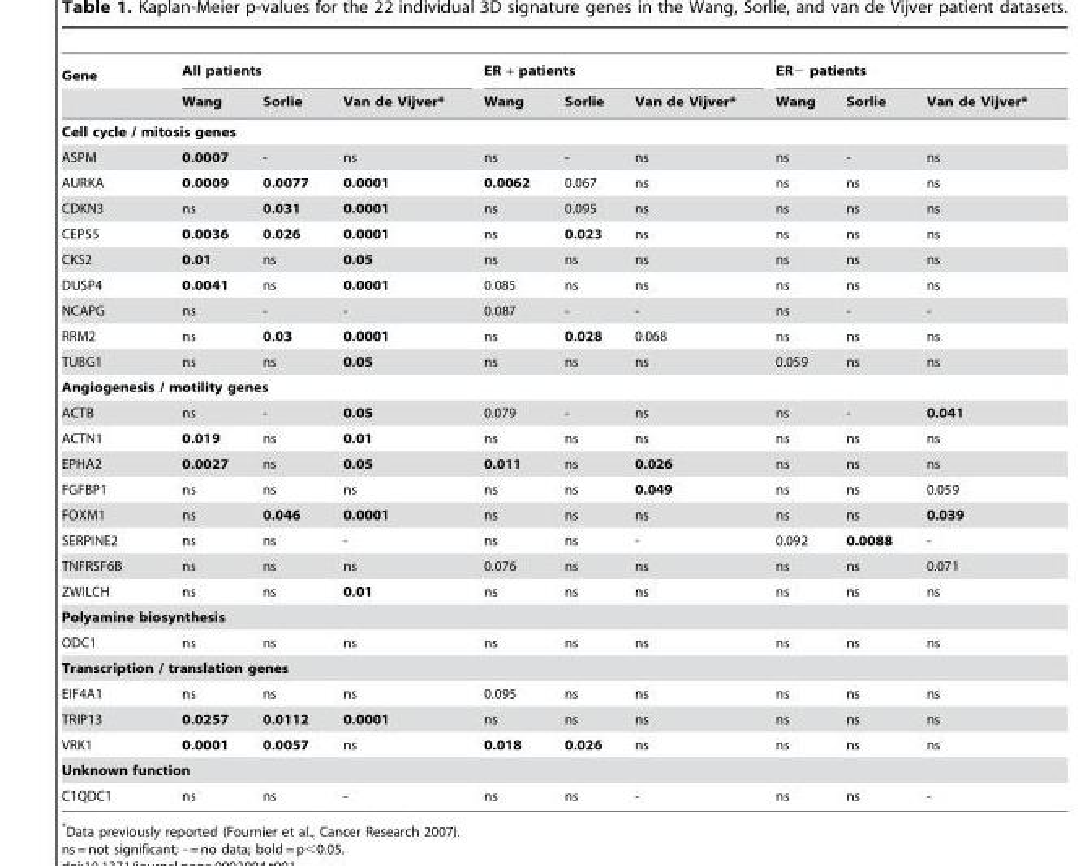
<table><thead><tr><td rowspan="2">Gene</td><td colspan="3">All patients</td><td colspan="3">ER + patients</td><td colspan="3">ER− patients</td></tr><tr><td>Wang</td><td>Sorlie</td><td>Van de Vijver*</td><td>Wang</td><td>Sorlie</td><td>Van de Vijver*</td><td>Wang</td><td>Sorlie</td><td>Van de Vijver*</td></tr></thead><tbody><tr><td colspan="10">Cell cycle / mitosis genes</td></tr><tr><td>ASPM</td><td>0.0007</td><td>-</td><td>ns</td><td>ns</td><td>-</td><td>ns</td><td>ns</td><td>-</td><td>ns</td></tr><tr><td>AURKA</td><td>0.0009</td><td>0.0077</td><td>0.0001</td><td>0.0062</td><td>0.067</td><td>ns</td><td>ns</td><td>ns</td><td>ns</td></tr><tr><td>CDKN3</td><td>ns</td><td>0.031</td><td>0.0001</td><td>ns</td><td>0.095</td><td>ns</td><td>ns</td><td>ns</td><td>ns</td></tr><tr><td>CEP55</td><td>0.0036</td><td>0.026</td><td>0.0001</td><td>ns</td><td>0.023</td><td>ns</td><td>ns</td><td>ns</td><td>ns</td></tr><tr><td>CKS2</td><td>0.01</td><td>ns</td><td>0.05</td><td>ns</td><td>ns</td><td>ns</td><td>ns</td><td>ns</td><td>ns</td></tr><tr><td>DUSP4</td><td>0.0041</td><td>ns</td><td>0.0001</td><td>0.085</td><td>ns</td><td>ns</td><td>ns</td><td>ns</td><td>ns</td></tr><tr><td>NCAPG</td><td>ns</td><td>-</td><td>-</td><td>0.087</td><td>-</td><td>-</td><td>ns</td><td>-</td><td>-</td></tr><tr><td>RRM2</td><td>ns</td><td>0.03</td><td>0.0001</td><td>ns</td><td>0.028</td><td>0.068</td><td>ns</td><td>ns</td><td>ns</td></tr><tr><td>TUBG1</td><td>ns</td><td>ns</td><td>0.05</td><td>ns</td><td>ns</td><td>ns</td><td>0.059</td><td>ns</td><td>ns</td></tr><tr><td colspan="10">Angiogenesis / motility genes</td></tr><tr><td>ACTB</td><td>ns</td><td>-</td><td>0.05</td><td>0.079</td><td>-</td><td>ns</td><td>ns</td><td>-</td><td>0.041</td></tr><tr><td>ACTN1</td><td>0.019</td><td>ns</td><td>0.01</td><td>ns</td><td>ns</td><td>ns</td><td>ns</td><td>ns</td><td>ns</td></tr><tr><td>EPHA2</td><td>0.0027</td><td>ns</td><td>0.05</td><td>0.011</td><td>ns</td><td>0.026</td><td>ns</td><td>ns</td><td>ns</td></tr><tr><td>FGFBP1</td><td>ns</td><td>ns</td><td>ns</td><td>ns</td><td>ns</td><td>0.049</td><td>ns</td><td>ns</td><td>0.059</td></tr><tr><td>FOXM1</td><td>ns</td><td>0.046</td><td>0.0001</td><td>ns</td><td>ns</td><td>ns</td><td>ns</td><td>ns</td><td>0.039</td></tr><tr><td>SERPINE2</td><td>ns</td><td>ns</td><td>-</td><td>ns</td><td>ns</td><td>-</td><td>0.092</td><td>0.0088</td><td>-</td></tr><tr><td>TNFRSF6B</td><td>ns</td><td>ns</td><td>ns</td><td>0.076</td><td>ns</td><td>ns</td><td>ns</td><td>ns</td><td>0.071</td></tr><tr><td>ZWILCH</td><td>ns</td><td>ns</td><td>0.01</td><td>ns</td><td>ns</td><td>ns</td><td>ns</td><td>ns</td><td>ns</td></tr><tr><td colspan="10">Polyamine biosynthesis</td></tr><tr><td>ODC1</td><td>ns</td><td>ns</td><td>ns</td><td>ns</td><td>ns</td><td>ns</td><td>ns</td><td>ns</td><td>ns</td></tr><tr><td colspan="10">Transcription / translation genes</td></tr><tr><td>EIF4A1</td><td>ns</td><td>ns</td><td>ns</td><td>0.095</td><td>ns</td><td>ns</td><td>ns</td><td>ns</td><td>ns</td></tr><tr><td>TRIP13</td><td>0.0257</td><td>0.0112</td><td>0.0001</td><td>ns</td><td>ns</td><td>ns</td><td>ns</td><td>ns</td><td>ns</td></tr><tr><td>VRK1</td><td>0.0001</td><td>0.0057</td><td>ns</td><td>0.018</td><td>0.026</td><td>ns</td><td>ns</td><td>ns</td><td>ns</td></tr><tr><td colspan="10">Unknown function</td></tr><tr><td>C1QDC1</td><td>ns</td><td>ns</td><td>-</td><td>ns</td><td>ns</td><td>-</td><td>ns</td><td>ns</td><td>-</td></tr></tbody></table>